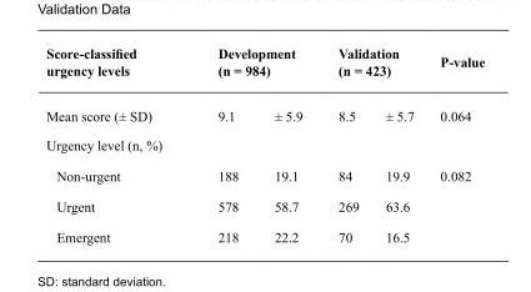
<table><thead><tr><td rowspan="2">Score-classified urgency levels Mean score (± SD)</td><td colspan="2">Development (n = 984)</td><td colspan="2">Validation (n = 423)</td><td rowspan="2">P-value 0.064</td></tr><tr><td>9.1</td><td>± 5.9</td><td>8.5</td><td>± 5.7</td></tr></thead><tbody><tr><td colspan="6">Urgency level (n, %)</td></tr><tr><td>Non-urgent</td><td>188</td><td>19.1</td><td>84</td><td>19.9</td><td>0.082</td></tr><tr><td>Urgent</td><td>578</td><td>58.7</td><td>269</td><td>63.6</td><td></td></tr><tr><td>Emergent</td><td>218</td><td>22.2</td><td>70</td><td>16.5</td><td></td></tr></tbody></table>